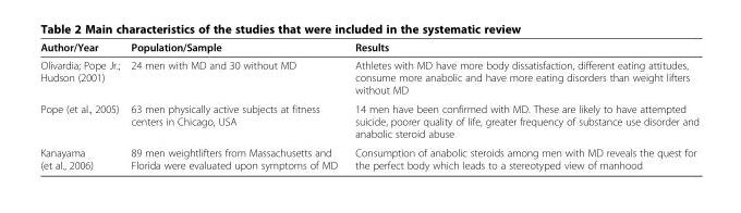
<table><thead><tr><td>Author/Year</td><td>Population/Sample</td><td>Results</td></tr></thead><tbody><tr><td>Olivardia; Pope Jr.; Hudson (2001)</td><td>24 men with MD and 30 without MD</td><td>Athletes with MD have more body dissatisfaction, different eating attitudes, consume more anabolic and have more eating disorders than weight lifters without MD</td></tr><tr><td>Pope (et al., 2005)</td><td>63 men physically active subjects at fitness centers in Chicago, USA</td><td>14 men have been confirmed with MD. These are likely to have attempted suicide, poorer quality of life, greater frequency of substance use disorder and anabolic steroid abuse</td></tr><tr><td>Kanayama (et al., 2006)</td><td>89 men weightlifters from Massachusetts and Florida were evaluated upon symptoms of MD</td><td>Consumption of anabolic steroids among men with MD reveals the quest for the perfect body which leads to a stereotyped view of manhood</td></tr></tbody></table>